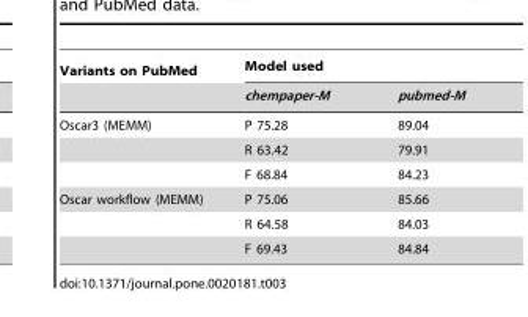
<table><thead><tr><td rowspan="2">Variants on PubMed</td><td colspan="2">Model used</td></tr><tr><td>chempaper-M</td><td>pubmed-M</td></tr></thead><tbody><tr><td rowspan="3">Oscar3 (MEMM)</td><td>P 75.28</td><td>89.04</td></tr><tr><td>R 63.42</td><td>79.91</td></tr><tr><td>F 68.84</td><td>84.23</td></tr><tr><td rowspan="3">Oscar workflow (MEMM)</td><td>P 75.06</td><td>85.66</td></tr><tr><td>R 64.58</td><td>84.03</td></tr><tr><td>F 69.43</td><td>84.84</td></tr></tbody></table>